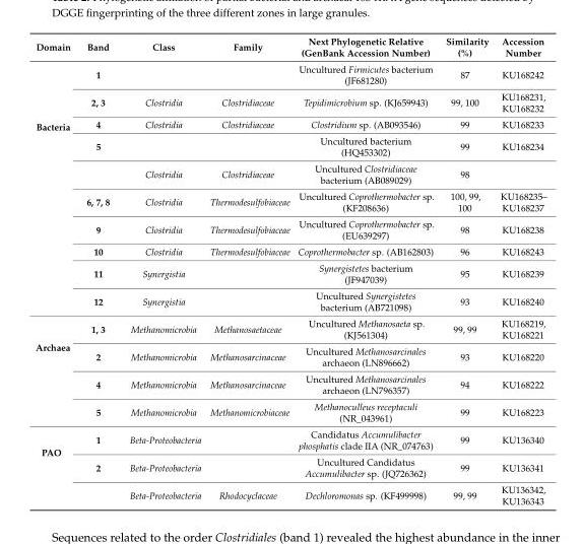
<table><thead><tr><td>Domain</td><td>Band</td><td>Class</td><td>Family</td><td>Next Phylogenetic Relative (GenBank Accession Number)</td><td>Similarity (%)</td><td>Accession Number</td></tr></thead><tbody><tr><td rowspan="10">Bacteria</td><td>1</td><td></td><td></td><td>Uncultured Firmicutes bacterium (JF681280)</td><td>87</td><td>KU168242</td></tr><tr><td>2, 3</td><td>Clostridia</td><td>Clostridiaceae</td><td>Tepidimicrobium sp. (KJ659943)</td><td>99, 100</td><td>KU168231, KU168232</td></tr><tr><td>4</td><td>Clostridia</td><td>Clostridiaceae</td><td>Clostridium sp. (AB093546)</td><td>99</td><td>KU168233</td></tr><tr><td>5</td><td></td><td></td><td>Uncultured bacterium (HQ453302)</td><td>99</td><td>KU168234</td></tr><tr><td></td><td>Clostridia</td><td>Clostridiaceae</td><td>Uncultured Clostridiaceae bacterium (AB089029)</td><td>98</td><td></td></tr><tr><td>6, 7, 8</td><td>Clostridia</td><td>Thermodesulfobiaceae</td><td>Uncultured Coprothermobacter sp. (KF208636)</td><td>100, 99, 100</td><td>KU168235– KU168237</td></tr><tr><td>9</td><td>Clostridia</td><td>Thermodesulfobiaceae</td><td>Uncultured Coprothermobacter sp. (EU639297)</td><td>98</td><td>KU168238</td></tr><tr><td>10</td><td>Clostridia</td><td>Thermodesulfobiaceae</td><td>Coprothermobacter sp. (AB162803)</td><td>96</td><td>KU168243</td></tr><tr><td>11</td><td>Synergistia</td><td></td><td>Synergistetes bacterium (JF947039)</td><td>95</td><td>KU168239</td></tr><tr><td>12</td><td>Synergistia</td><td></td><td>Uncultured Synergistetes bacterium (AB721098)</td><td>93</td><td>KU168240</td></tr><tr><td rowspan="4">Archaea</td><td>1, 3</td><td>Methanomicrobia</td><td>Methanosaetaceae</td><td>Uncultured Methanosaeta sp. (KJ561304)</td><td>99, 99</td><td>KU168219, KU168221</td></tr><tr><td>2</td><td>Methanomicrobia</td><td>Methanosarcinaceae</td><td>Uncultured Methanosarcinales archaeon (LN896662)</td><td>93</td><td>KU168220</td></tr><tr><td>4</td><td>Methanomicrobia</td><td>Methanosarcinaceae</td><td>Uncultured Methanosarcinales archaeon (LN796357)</td><td>94</td><td>KU168222</td></tr><tr><td>5</td><td>Methanomicrobia</td><td>Methanomicrobiaceae</td><td>Methanoculleus receptaculi (NR_043961)</td><td>99</td><td>KU168223</td></tr><tr><td rowspan="3">PAO</td><td>1</td><td>Beta-Proteobacteria</td><td></td><td>Candidatus Accumulibacter phosphatis clade IIA (NR_074763)</td><td>99</td><td>KU136340</td></tr><tr><td>2</td><td>Beta-Proteobacteria</td><td></td><td>Uncultured Candidatus Accumulibacter sp. (JQ726362)</td><td>99</td><td>KU136341</td></tr><tr><td></td><td>Beta-Proteobacteria</td><td>Rhodocyclaceae</td><td>Dechloromonas sp. (KF499998)</td><td>99, 99</td><td>KU136342, KU136343</td></tr></tbody></table>